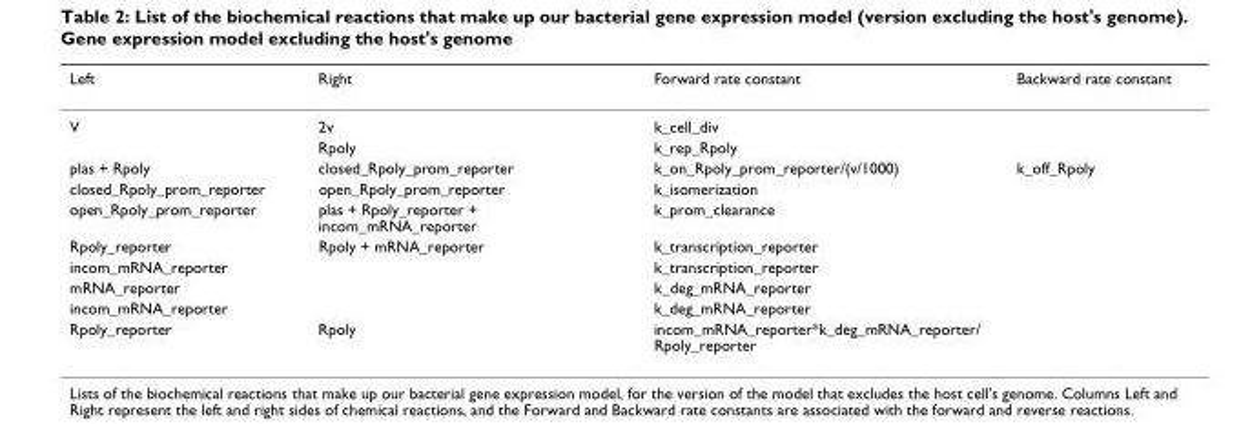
<table><thead><tr><td>Left</td><td>Right</td><td>Forward rate constant</td><td>Backward rate constant</td></tr></thead><tbody><tr><td rowspan="2">V</td><td>2v</td><td>k_cell_div</td><td></td></tr><tr><td>Rpoly</td><td>k_rep_Rpoly</td><td></td></tr><tr><td>plas + Rpoly</td><td>closed_Rpoly_prom_reporter</td><td>k_on_Rpoly_prom_reporter/(v/1000)</td><td>k_off_Rpoly</td></tr><tr><td>closed_Rpoly_prom_reporter</td><td>open_Rpoly_prom_reporter</td><td>k_isomerization</td><td></td></tr><tr><td>open_Rpoly_prom_reporter</td><td>plas + Rpoly_reporter + incom_mRNA_reporter</td><td>k_prom_clearance</td><td></td></tr><tr><td>Rpoly_reporter</td><td>Rpoly + mRNA_reporter</td><td>k_transcription_reporter</td><td></td></tr><tr><td>incom_mRNA_reporter</td><td></td><td>k_transcription_reporter</td><td></td></tr><tr><td>mRNA_reporter</td><td></td><td>k_deg_mRNA_reporter</td><td></td></tr><tr><td>incom_mRNA_reporter</td><td></td><td>k_deg_mRNA_reporter</td><td></td></tr><tr><td>Rpoly_reporter</td><td>Rpoly</td><td>incom_mRNA_reporter*k_deg_mRNA_reporter/ Rpoly_reporter</td><td></td></tr></tbody></table>